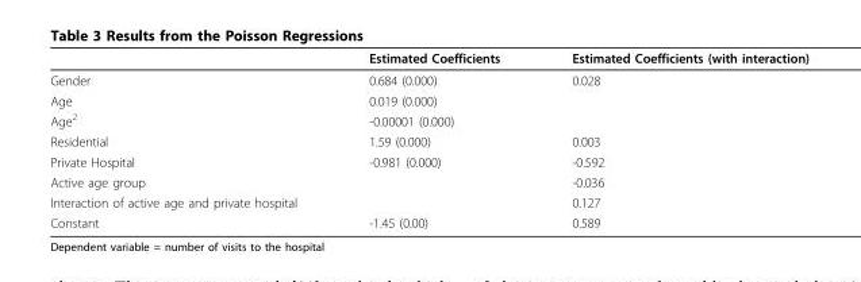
<table><thead><tr><td></td><td>Estimated Coefficients</td><td>Estimated Coefficients (with interaction)</td></tr></thead><tbody><tr><td>Gender</td><td>0.684 (0.000)</td><td>0.028</td></tr><tr><td>Age</td><td>0.019 (0.000)</td><td></td></tr><tr><td>Age<sup>2</sup></td><td>-0.00001 (0.000)</td><td></td></tr><tr><td>Residential</td><td>1.59 (0.000)</td><td>0.003</td></tr><tr><td>Private Hospital</td><td>-0.981 (0.000)</td><td>-0.592</td></tr><tr><td>Active age group</td><td></td><td>-0.036</td></tr><tr><td>Interaction of active age and private hospital</td><td></td><td>0.127</td></tr><tr><td>Constant</td><td>-1.45 (0.00)</td><td>0.589</td></tr></tbody></table>